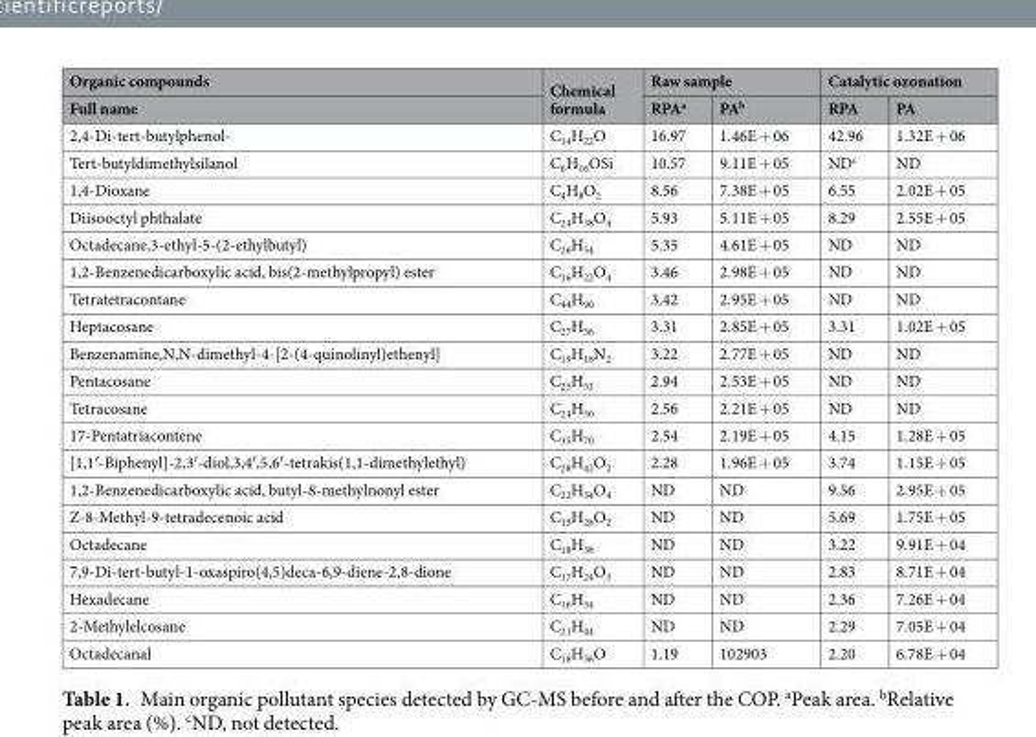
<table><thead><tr><td rowspan="2">Organic compounds Full name</td><td rowspan="2">Chemical formula</td><td colspan="2">Raw sample</td><td colspan="2">Catalytic ozonation</td></tr><tr><td>RPA<sup>a</sup></td><td>PA<sup>b</sup></td><td>RPA</td><td>PA</td></tr></thead><tbody><tr><td>2,4-Di-tert-butylphenol-</td><td>C<sub>14</sub>H<sub>22</sub>O</td><td>16.97</td><td>1.46E + 06</td><td>42.96</td><td>1.32E + 06</td></tr><tr><td>Tert-butyldimethylsilanol</td><td>C<sub>6</sub>H<sub>16</sub>OSi</td><td>10.57</td><td>9.11E + 05</td><td>ND<sup>c</sup></td><td>ND</td></tr><tr><td>1,4-Dioxane</td><td>C<sub>4</sub>H<sub>8</sub>O<sub>2</sub></td><td>8.56</td><td>7.38E + 05</td><td>6.55</td><td>2.02E + 05</td></tr><tr><td>Diisooctyl phthalate</td><td>C<sub>24</sub>H<sub>38</sub>O<sub>4</sub></td><td>5.93</td><td>5.11E + 05</td><td>8.29</td><td>2.55E + 05</td></tr><tr><td>Octadecane,3-ethyl-5-(2-ethylbutyl)</td><td>C<sub>26</sub>H<sub>54</sub></td><td>5.35</td><td>4.61E + 05</td><td>ND</td><td>ND</td></tr><tr><td>1,2-Benzenedicarboxylic acid, bis(2-methylpropyl) ester</td><td>C<sub>16</sub>H<sub>22</sub>O<sub>4</sub></td><td>3.46</td><td>2.98E + 05</td><td>ND</td><td>ND</td></tr><tr><td>Tetratetracontane</td><td>C<sub>44</sub>H<sub>90</sub></td><td>3.42</td><td>2.95E + 05</td><td>ND</td><td>ND</td></tr><tr><td>Heptacosane</td><td>C<sub>27</sub>H<sub>56</sub></td><td>3.31</td><td>2.85E + 05</td><td>3.31</td><td>1.02E + 05</td></tr><tr><td>Benzenamine,N,N-dimethyl-4-[2-(4-quinolinyl)ethenyl]</td><td>C<sub>19</sub>H<sub>18</sub>N<sub>2</sub></td><td>3.22</td><td>2.77E + 05</td><td>ND</td><td>ND</td></tr><tr><td>Pentacosane</td><td>C<sub>25</sub>H<sub>52</sub></td><td>2.94</td><td>2.53E + 05</td><td>ND</td><td>ND</td></tr><tr><td>Tetracosane</td><td>C<sub>24</sub>H<sub>50</sub></td><td>2.56</td><td>2.21E + 05</td><td>ND</td><td>ND</td></tr><tr><td>17-Pentatriacontene</td><td>C<sub>35</sub>H<sub>70</sub></td><td>2.54</td><td>2.19E + 05</td><td>4.15</td><td>1.28E + 05</td></tr><tr><td>[1,1′-Biphenyl]-2,3′-diol,3,4′,5,6′-tetrakis(1,1-dimethylethyl)</td><td>C<sub>28</sub>H<sub>42</sub>O<sub>2</sub></td><td>2.28</td><td>1.96E + 05</td><td>3.74</td><td>1.15E + 05</td></tr><tr><td>1,2-Benzenedicarboxylic acid, butyl-8-methylnonyl ester</td><td>C<sub>22</sub>H<sub>34</sub>O<sub>4</sub></td><td>ND</td><td>ND</td><td>9.56</td><td>2.95E + 05</td></tr><tr><td>Z-8-Methyl-9-tetradecenoic acid</td><td>C<sub>15</sub>H<sub>28</sub>O<sub>2</sub></td><td>ND</td><td>ND</td><td>5.69</td><td>1.75E + 05</td></tr><tr><td>Octadecane</td><td>C<sub>18</sub>H<sub>38</sub></td><td>ND</td><td>ND</td><td>3.22</td><td>9.91E + 04</td></tr><tr><td>7,9-Di-tert-butyl-1-oxaspiro(4,5)deca-6,9-diene-2,8-dione</td><td>C<sub>17</sub>H<sub>24</sub>O<sub>3</sub></td><td>ND</td><td>ND</td><td>2.83</td><td>8.71E + 04</td></tr><tr><td>Hexadecane</td><td>C<sub>16</sub>H<sub>34</sub></td><td>ND</td><td>ND</td><td>2.36</td><td>7.26E + 04</td></tr><tr><td>2-Methylelcosane</td><td>C<sub>21</sub>H<sub>44</sub></td><td>ND</td><td>ND</td><td>2.29</td><td>7.05E + 04</td></tr><tr><td>Octadecanal</td><td>C<sub>18</sub>H<sub>36</sub>O</td><td>1.19</td><td>102903</td><td>2.20</td><td>6.78E + 04</td></tr></tbody></table>